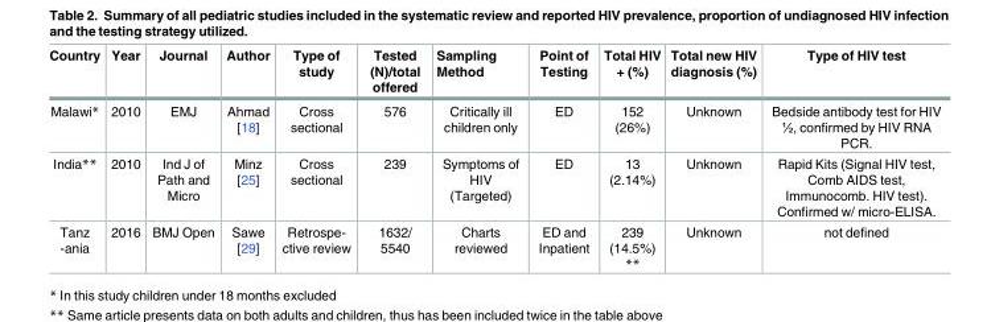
<table><thead><tr><td>Country</td><td>Year</td><td>Journal</td><td>Author</td><td>Type of study</td><td>Tested (N)/total offered</td><td>Sampling Method</td><td>Point of Testing</td><td>Total HIV + (%)</td><td>Total new HIV diagnosis (%)</td><td>Type of HIV test</td></tr></thead><tbody><tr><td>Malawi*</td><td>2010</td><td>EMJ</td><td>Ahmad [18]</td><td>Cross sectional</td><td>576</td><td>Critically ill children only</td><td>ED</td><td>152 (26%)</td><td>Unknown</td><td>Bedside antibody test for HIV ½, confirmed by HIV RNA PCR.</td></tr><tr><td>India**</td><td>2010</td><td>Ind J of Path and Micro</td><td>Minz [25]</td><td>Cross sectional</td><td>239</td><td>Symptoms of HIV (Targeted)</td><td>ED</td><td>13 (2.14%)</td><td>Unknown</td><td>Rapid Kits (Signal HIV test, Comb AIDS test, Immunocomb. HIV test). Confirmed w/ micro-ELISA.</td></tr><tr><td>Tanz -ania</td><td>2016</td><td>BMJ Open</td><td>Sawe [29]</td><td>Retrospe- ctive review</td><td>1632/ 5540</td><td>Charts reviewed</td><td>ED and Inpatient</td><td>239 (14.5%) **</td><td>Unknown</td><td>not defined</td></tr></tbody></table>